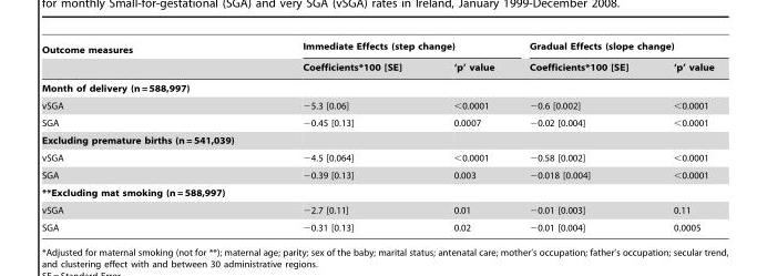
<table><thead><tr><td rowspan="2">Outcome measures</td><td colspan="2">Immediate Effects (step change)</td><td colspan="2">Gradual Effects (slope change)</td></tr><tr><td>Coefficients*100 [SE]</td><td>‘p’ value</td><td>Coefficients*100 [SE]</td><td>‘p’ value</td></tr></thead><tbody><tr><td colspan="5">Month of delivery (n = 588,997)</td></tr><tr><td>vSGA</td><td>−5.3 [0.06]</td><td>&lt;0.0001</td><td>−0.6 [0.002]</td><td>&lt;0.0001</td></tr><tr><td>SGA</td><td>−0.45 [0.13]</td><td>0.0007</td><td>−0.02 [0.004]</td><td>&lt;0.0001</td></tr><tr><td colspan="5">Excluding premature births (n = 541,039)</td></tr><tr><td>vSGA</td><td>−4.5 [0.064]</td><td>&lt;0.0001</td><td>−0.58 [0.002]</td><td>&lt;0.0001</td></tr><tr><td>SGA</td><td>−0.39 [0.13]</td><td>0.003</td><td>−0.018 [0.004]</td><td>&lt;0.0001</td></tr><tr><td colspan="5">**Excluding mat smoking (n = 588,997)</td></tr><tr><td>vSGA</td><td>−2.7 [0.11]</td><td>0.01</td><td>−0.01 [0.003]</td><td>0.11</td></tr><tr><td>SGA</td><td>−0.31 [0.13]</td><td>0.02</td><td>−0.01 [0.004]</td><td>0.0005</td></tr></tbody></table>